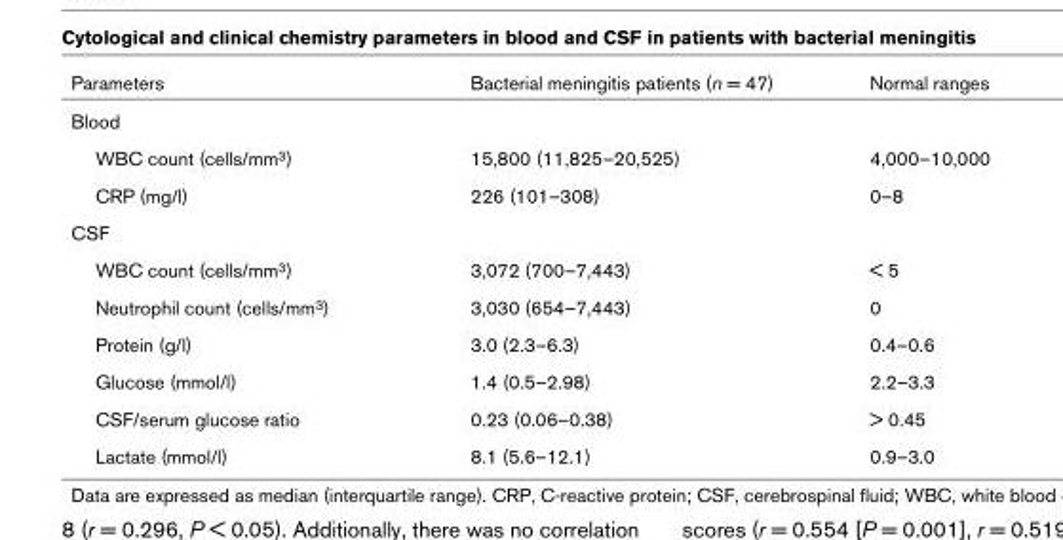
<table><thead><tr><td>Parameters</td><td>Bacterial meningitis patients (n = 47)</td><td>Normal ranges</td></tr></thead><tbody><tr><td colspan="3">Blood</td></tr><tr><td>WBC count (cells/mm<sup>3</sup>)</td><td>15,800 (11,825–20,525)</td><td>4,000–10,000</td></tr><tr><td>CRP (mg/l)</td><td>226 (101–308)</td><td>0–8</td></tr><tr><td colspan="3">CSF</td></tr><tr><td>WBC count (cells/mm<sup>3</sup>)</td><td>3,072 (700–7,443)</td><td>&lt; 5</td></tr><tr><td>Neutrophil count (cells/mm<sup>3</sup>)</td><td>3,030 (654–7,443)</td><td>0</td></tr><tr><td>Protein (g/l)</td><td>3.0 (2.3–6.3)</td><td>0.4–0.6</td></tr><tr><td>Glucose (mmol/l)</td><td>1.4 (0.5–2.98)</td><td>2.2–3.3</td></tr><tr><td>CSF/serum glucose ratio</td><td>0.23 (0.06–0.38)</td><td>&gt; 0.45</td></tr><tr><td>Lactate (mmol/l)</td><td>8.1 (5.6–12.1)</td><td>0.9–3.0</td></tr></tbody></table>